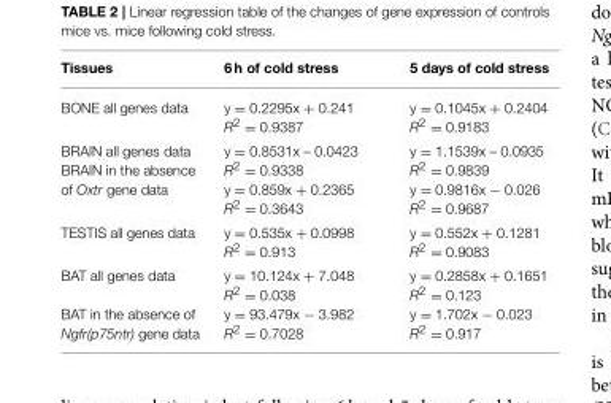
<table><thead><tr><td>Tissues</td><td>6 h of cold stress</td><td>5 days of cold stress</td></tr></thead><tbody><tr><td>BONE all genes data</td><td>y = 0.2295x + 0.241 R<sup>2</sup> = 0.9387</td><td>y = 0.1045x + 0.2404 R<sup>2</sup> = 0.9183</td></tr><tr><td>BRAIN all genes data BRAIN in the absence of Oxtr gene data</td><td>y = 0.8531x – 0.0423 R<sup>2</sup> = 0.9338 y = 0.859x + 0.2365 R<sup>2</sup> = 0.3643</td><td>y = 1.1539x – 0.0935 R<sup>2</sup> = 0.9839 y = 0.9816x − 0.026 R<sup>2</sup> = 0.9687</td></tr><tr><td>TESTIS all genes data</td><td>y = 0.535x + 0.0998 R<sup>2</sup> = 0.913</td><td>y = 0.552x + 0.1281 R<sup>2</sup> = 0.9083</td></tr><tr><td>BAT all genes data BAT in the absence of Ngfr(p75ntr) gene data</td><td>y = 10.124x + 7.048 R<sup>2</sup> = 0.038 y = 93.479x − 3.982 R<sup>2</sup> = 0.7028</td><td>y = 0.2858x + 0.1651 R<sup>2</sup> = 0.123 y = 1.702x − 0.023 R<sup>2</sup> = 0.917</td></tr></tbody></table>